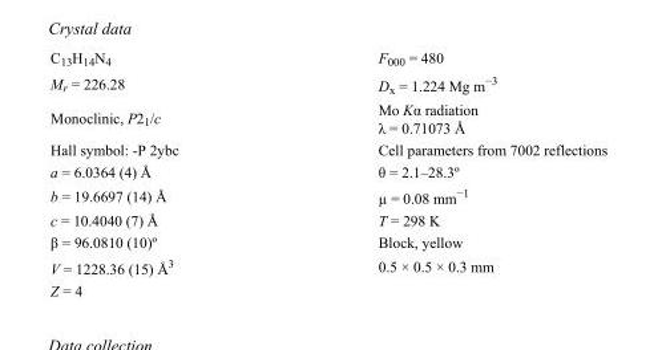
<table><tbody><tr><td>C<sub>13</sub>H<sub>14</sub>N<sub>4</sub></td><td>F000 = 480</td></tr><tr><td>M<sub>r</sub> = 226.28</td><td>D<sub>x</sub> = 1.224 Mg m<sup>−3</sup></td></tr><tr><td>Monoclinic, P2<sub>1</sub>/c</td><td>Mo Kα radiation λ = 0.71073 Å</td></tr><tr><td>Hall symbol: -P 2ybc</td><td>Cell parameters from 7002 reflections</td></tr><tr><td>a = 6.0364 (4) Å</td><td>θ = 2.1–28.3º</td></tr><tr><td>b = 19.6697 (14) Å</td><td>µ = 0.08 mm<sup>−1</sup></td></tr><tr><td>c = 10.4040 (7) Å</td><td>T = 298 K</td></tr><tr><td>β = 96.0810 (10)º</td><td>Block, yellow</td></tr><tr><td>V = 1228.36 (15) Å<sup>3</sup></td><td>0.5 × 0.5 × 0.3 mm</td></tr><tr><td>Z = 4</td><td></td></tr></tbody></table>